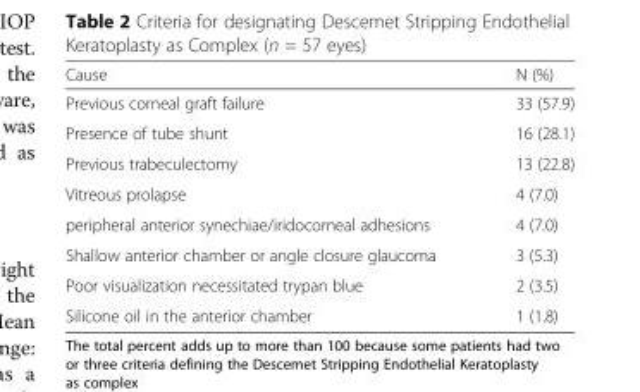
<table><thead><tr><td>Cause</td><td>N (%)</td></tr></thead><tbody><tr><td>Previous corneal graft failure</td><td>33 (57.9)</td></tr><tr><td>Presence of tube shunt</td><td>16 (28.1)</td></tr><tr><td>Previous trabeculectomy</td><td>13 (22.8)</td></tr><tr><td>Vitreous prolapse</td><td>4 (7.0)</td></tr><tr><td>peripheral anterior synechiae/iridocorneal adhesions</td><td>4 (7.0)</td></tr><tr><td>Shallow anterior chamber or angle closure glaucoma</td><td>3 (5.3)</td></tr><tr><td>Poor visualization necessitated trypan blue</td><td>2 (3.5)</td></tr><tr><td>Silicone oil in the anterior chamber</td><td>1 (1.8)</td></tr></tbody></table>